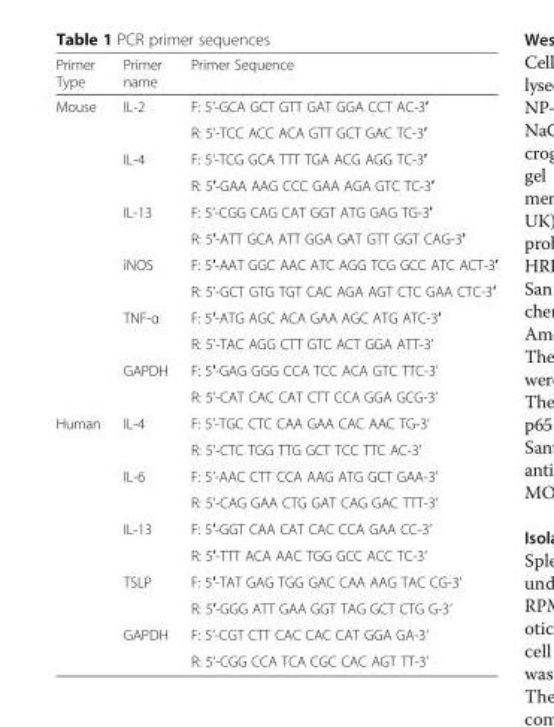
<table><thead><tr><td>Primer Type</td><td>Primer name</td><td>Primer Sequence</td></tr></thead><tbody><tr><td rowspan="12">Mouse</td><td rowspan="2">IL-2</td><td>F: 5’-GCA GCT GTT GAT GGA CCT AC-3′</td></tr><tr><td>R: 5’-TCC ACC ACA GTT GCT GAC TC-3′</td></tr><tr><td rowspan="2">IL-4</td><td>F: 5’-TCG GCA TTT TGA ACG AGG TC-3′</td></tr><tr><td>R: 5′-GAA AAG CCC GAA AGA GTC TC-3′</td></tr><tr><td rowspan="2">IL-13</td><td>F: 5’-CGG CAG CAT GGT ATG GAG TG-3′</td></tr><tr><td>R: 5′-ATT GCA ATT GGA GAT GTT GGT CAG-3′</td></tr><tr><td rowspan="2">iNOS</td><td>F: 5′-AAT GGC AAC ATC AGG TCG GCC ATC ACT-3′</td></tr><tr><td>R: 5’-GCT GTG TGT CAC AGA AGT CTC GAA CTC-3′</td></tr><tr><td rowspan="2">TNF-α</td><td>F: 5′-ATG AGC ACA GAA AGC ATG ATC-3′</td></tr><tr><td>R: 5’-TAC AGG CTT GTC ACT GGA ATT-3’</td></tr><tr><td rowspan="2">GAPDH</td><td>F: 5′-GAG GGG CCA TCC ACA GTC TTC-3’</td></tr><tr><td>R: 5’-CAT CAC CAT CTT CCA GGA GCG-3’</td></tr><tr><td rowspan="10">Human</td><td rowspan="2">IL-4</td><td>F: 5’-TGC CTC CAA GAA CAC AAC TG-3’</td></tr><tr><td>R: 5’-CTC TGG TTG GCT TCC TTC AC-3’</td></tr><tr><td rowspan="2">IL-6</td><td>F: 5’-AAC CTT CCA AAG ATG GCT GAA-3’</td></tr><tr><td>R: 5’-CAG GAA CTG GAT CAG GAC TTT-3’</td></tr><tr><td rowspan="2">IL-13</td><td>F: 5′-GGT CAA CAT CAC CCA GAA CC-3’</td></tr><tr><td>R: 5′-TTT ACA AAC TGG GCC ACC TC-3’</td></tr><tr><td rowspan="2">TSLP</td><td>F: 5′-TAT GAG TGG GAC CAA AAG TAC CG-3’</td></tr><tr><td>R: 5′-GGG ATT GAA GGT TAG GCT CTG G-3’</td></tr><tr><td rowspan="2">GAPDH</td><td>F: 5’-CGT CTT CAC CAC CAT GGA GA-3’</td></tr><tr><td>R: 5’-CGG CCA TCA CGC CAC AGT TT-3’</td></tr></tbody></table>